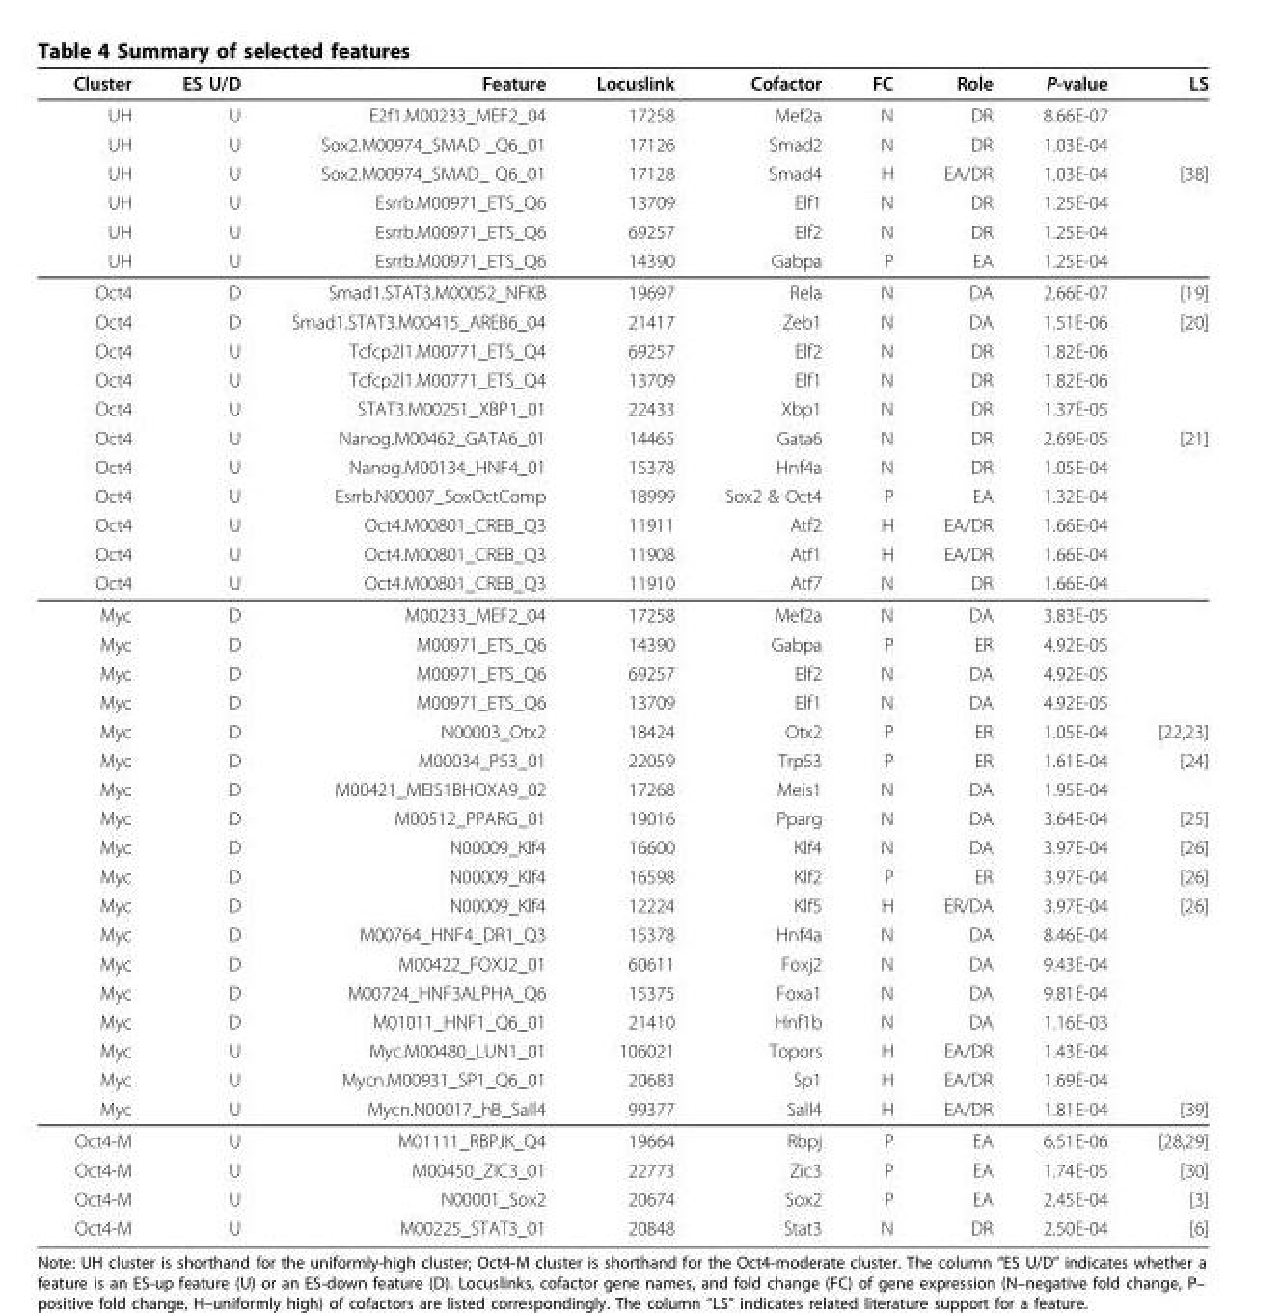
<table><thead><tr><td>Cluster</td><td>ES U/D</td><td>Feature</td><td>Locuslink</td><td>Cofactor</td><td>FC</td><td>Role</td><td>P-value</td><td>LS</td></tr></thead><tbody><tr><td>UH</td><td>U</td><td>E2f1.M00233_MEF2_04</td><td>17258</td><td>Mef2a</td><td>N</td><td>DR</td><td>8.66E-07</td><td></td></tr><tr><td>UH</td><td>U</td><td>Sox2.M00974_SMAD _Q6_01</td><td>17126</td><td>Smad2</td><td>N</td><td>DR</td><td>1.03E-04</td><td></td></tr><tr><td>UH</td><td>U</td><td>Sox2.M00974_SMAD_ Q6_01</td><td>17128</td><td>Smad4</td><td>H</td><td>EA/DR</td><td>1.03E-04</td><td>[38]</td></tr><tr><td>UH</td><td>U</td><td>Esrrb.M00971_ETS_Q6</td><td>13709</td><td>Elf1</td><td>N</td><td>DR</td><td>1.25E-04</td><td></td></tr><tr><td>UH</td><td>U</td><td>Esrrb.M00971_ETS_Q6</td><td>69257</td><td>Elf2</td><td>N</td><td>DR</td><td>1.25E-04</td><td></td></tr><tr><td>UH</td><td>U</td><td>Esrrb.M00971_ETS_Q6</td><td>14390</td><td>Gabpa</td><td>P</td><td>EA</td><td>1.25E-04</td><td></td></tr><tr><td>Oct4</td><td>D</td><td>Smad1.STAT3.M00052_NFKB</td><td>19697</td><td>Rela</td><td>N</td><td>DA</td><td>2.66E-07</td><td>[19]</td></tr><tr><td>Oct4</td><td>D</td><td>Smad1.STAT3.M00415_AREB6_04</td><td>21417</td><td>Zeb1</td><td>N</td><td>DA</td><td>1.51E-06</td><td>[20]</td></tr><tr><td>Oct4</td><td>U</td><td>Tcfcp2l1.M00771_ETS_Q4</td><td>69257</td><td>Elf2</td><td>N</td><td>DR</td><td>1.82E-06</td><td></td></tr><tr><td>Oct4</td><td>U</td><td>Tcfcp2l1.M00771_ETS_Q4</td><td>13709</td><td>Elf1</td><td>N</td><td>DR</td><td>1.82E-06</td><td></td></tr><tr><td>Oct4</td><td>U</td><td>STAT3.M00251_XBP1_01</td><td>22433</td><td>Xbp1</td><td>N</td><td>DR</td><td>1.37E-05</td><td></td></tr><tr><td>Oct4</td><td>U</td><td>Nanog.M00462_GATA6_01</td><td>14465</td><td>Gata6</td><td>N</td><td>DR</td><td>2.69E-05</td><td>[21]</td></tr><tr><td>Oct4</td><td>U</td><td>Nanog.M00134_HNF4_01</td><td>15378</td><td>Hnf4a</td><td>N</td><td>DR</td><td>1.05E-04</td><td></td></tr><tr><td>Oct4</td><td>U</td><td>Esrrb.N00007_SoxOctComp</td><td>18999</td><td>Sox2 &amp; Oct4</td><td>P</td><td>EA</td><td>1.32E-04</td><td></td></tr><tr><td>Oct4</td><td>U</td><td>Oct4.M00801_CREB_Q3</td><td>11911</td><td>Atf2</td><td>H</td><td>EA/DR</td><td>1.66E-04</td><td></td></tr><tr><td>Oct4</td><td>U</td><td>Oct4.M00801_CREB_Q3</td><td>11908</td><td>Atf1</td><td>H</td><td>EA/DR</td><td>1.66E-04</td><td></td></tr><tr><td>Oct4</td><td>U</td><td>Oct4.M00801_CREB_Q3</td><td>11910</td><td>Atf7</td><td>N</td><td>DR</td><td>1.66E-04</td><td></td></tr><tr><td>Myc</td><td>D</td><td>M00233_MEF2_04</td><td>17258</td><td>Mef2a</td><td>N</td><td>DA</td><td>3.83E-05</td><td></td></tr><tr><td>Myc</td><td>D</td><td>M00971_ETS_Q6</td><td>14390</td><td>Gabpa</td><td>P</td><td>ER</td><td>4.92E-05</td><td></td></tr><tr><td>Myc</td><td>D</td><td>M00971_ETS_Q6</td><td>69257</td><td>Elf2</td><td>N</td><td>DA</td><td>4.92E-05</td><td></td></tr><tr><td>Myc</td><td>D</td><td>M00971_ETS_Q6</td><td>13709</td><td>Elf1</td><td>N</td><td>DA</td><td>4.92E-05</td><td></td></tr><tr><td>Myc</td><td>D</td><td>N00003_Otx2</td><td>18424</td><td>Otx2</td><td>P</td><td>ER</td><td>1.05E-04</td><td>[22,23]</td></tr><tr><td>Myc</td><td>D</td><td>M00034_P53_01</td><td>22059</td><td>Trp53</td><td>P</td><td>ER</td><td>1.61E-04</td><td>[24]</td></tr><tr><td>Myc</td><td>D</td><td>M00421_MEIS1BHOXA9_02</td><td>17268</td><td>Meis1</td><td>N</td><td>DA</td><td>1.95E-04</td><td></td></tr><tr><td>Myc</td><td>D</td><td>M00512_PPARG_01</td><td>19016</td><td>Pparg</td><td>N</td><td>DA</td><td>3.64E-04</td><td>[25]</td></tr><tr><td>Myc</td><td>D</td><td>N00009_Klf4</td><td>16600</td><td>Klf4</td><td>N</td><td>DA</td><td>3.97E-04</td><td>[26]</td></tr><tr><td>Myc</td><td>D</td><td>N00009_Klf4</td><td>16598</td><td>Klf2</td><td>P</td><td>ER</td><td>3.97E-04</td><td>[26]</td></tr><tr><td>Myc</td><td>D</td><td>N00009_Klf4</td><td>12224</td><td>Klf5</td><td>H</td><td>ER/DA</td><td>3.97E-04</td><td>[26]</td></tr><tr><td>Myc</td><td>D</td><td>M00764_HNF4_DR1_Q3</td><td>15378</td><td>Hnf4a</td><td>N</td><td>DA</td><td>8.46E-04</td><td></td></tr><tr><td>Myc</td><td>D</td><td>M00422_FOXJ2_01</td><td>60611</td><td>Foxj2</td><td>N</td><td>DA</td><td>9.43E-04</td><td></td></tr><tr><td>Myc</td><td>D</td><td>M00724_HNF3ALPHA_Q6</td><td>15375</td><td>Foxa1</td><td>N</td><td>DA</td><td>9.81E-04</td><td></td></tr><tr><td>Myc</td><td>D</td><td>M01011_HNF1_Q6_01</td><td>21410</td><td>Hnf1b</td><td>N</td><td>DA</td><td>1.16E-03</td><td></td></tr><tr><td>Myc</td><td>U</td><td>Myc.M00480_LUN1_01</td><td>106021</td><td>Topors</td><td>H</td><td>EA/DR</td><td>1.43E-04</td><td></td></tr><tr><td>Myc</td><td>U</td><td>Mycn.M00931_SP1_Q6_01</td><td>20683</td><td>Sp1</td><td>H</td><td>EA/DR</td><td>1.69E-04</td><td></td></tr><tr><td>Myc</td><td>U</td><td>Mycn.N00017_hB_Sall4</td><td>99377</td><td>Sall4</td><td>H</td><td>EA/DR</td><td>1.81E-04</td><td>[39]</td></tr><tr><td>Oct4-M</td><td>U</td><td>M01111_RBPJK_Q4</td><td>19664</td><td>Rbpj</td><td>P</td><td>EA</td><td>6.51E-06</td><td>[28,29]</td></tr><tr><td>Oct4-M</td><td>U</td><td>M00450_ZIC3_01</td><td>22773</td><td>Zic3</td><td>P</td><td>EA</td><td>1.74E-05</td><td>[30]</td></tr><tr><td>Oct4-M</td><td>U</td><td>N00001_Sox2</td><td>20674</td><td>Sox2</td><td>P</td><td>EA</td><td>2.45E-04</td><td>[3]</td></tr><tr><td>Oct4-M</td><td>U</td><td>M00225_STAT3_01</td><td>20848</td><td>Stat3</td><td>N</td><td>DR</td><td>2.50E-04</td><td>[6]</td></tr></tbody></table>